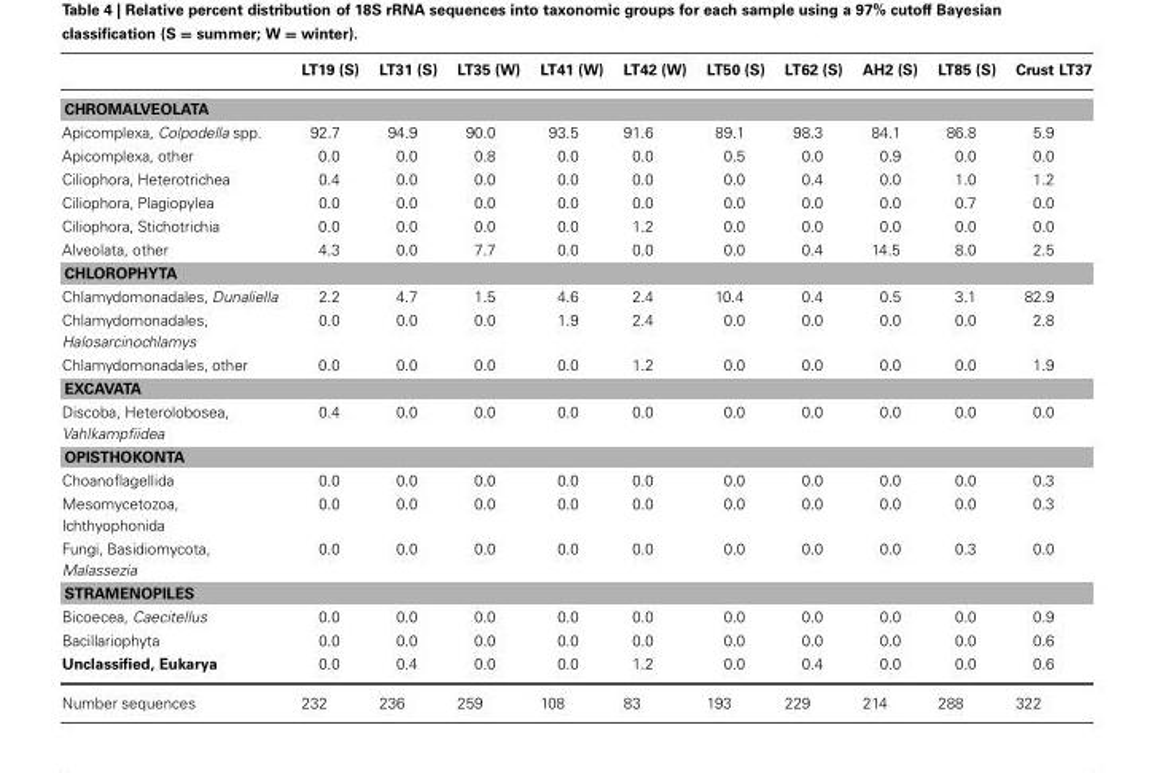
<table><thead><tr><td></td><td>LT19 (S)</td><td>LT31 (S)</td><td>LT35 (W)</td><td>LT41 (W)</td><td>LT42 (W)</td><td>LT50 (S)</td><td>LT62 (S)</td><td>AH2 (S)</td><td>LT85 (S)</td><td>Crust LT37</td></tr></thead><tbody><tr><td colspan="11">CHROMALVEOLATA</td></tr><tr><td>Apicomplexa, Colpodella spp.</td><td>92.7</td><td>94.9</td><td>90.0</td><td>93.5</td><td>91.6</td><td>89.1</td><td>98.3</td><td>84.1</td><td>86.8</td><td>5.9</td></tr><tr><td>Apicomplexa, other</td><td>0.0</td><td>0.0</td><td>0.8</td><td>0.0</td><td>0.0</td><td>0.5</td><td>0.0</td><td>0.9</td><td>0.0</td><td>0.0</td></tr><tr><td>Ciliophora, Heterotrichea</td><td>0.4</td><td>0.0</td><td>0.0</td><td>0.0</td><td>0.0</td><td>0.0</td><td>0.4</td><td>0.0</td><td>1.0</td><td>1.2</td></tr><tr><td>Ciliophora, Plagiopylea</td><td>0.0</td><td>0.0</td><td>0.0</td><td>0.0</td><td>0.0</td><td>0.0</td><td>0.0</td><td>0.0</td><td>0.7</td><td>0.0</td></tr><tr><td>Ciliophora, Stichotrichia</td><td>0.0</td><td>0.0</td><td>0.0</td><td>0.0</td><td>1.2</td><td>0.0</td><td>0.0</td><td>0.0</td><td>0.0</td><td>0.0</td></tr><tr><td>Alveolata, other</td><td>4.3</td><td>0.0</td><td>7.7</td><td>0.0</td><td>0.0</td><td>0.0</td><td>0.4</td><td>14.5</td><td>8.0</td><td>2.5</td></tr><tr><td colspan="11">CHLOROPHYTA</td></tr><tr><td>Chlamydomonadales, Dunaliella</td><td>2.2</td><td>4.7</td><td>1.5</td><td>4.6</td><td>2.4</td><td>10.4</td><td>0.4</td><td>0.5</td><td>3.1</td><td>82.9</td></tr><tr><td>Chlamydomonadales, Halosarcinochlamys</td><td>0.0</td><td>0.0</td><td>0.0</td><td>1.9</td><td>2.4</td><td>0.0</td><td>0.0</td><td>0.0</td><td>0.0</td><td>2.8</td></tr><tr><td>Chlamydomonadales, other</td><td>0.0</td><td>0.0</td><td>0.0</td><td>0.0</td><td>1.2</td><td>0.0</td><td>0.0</td><td>0.0</td><td>0.0</td><td>1.9</td></tr><tr><td colspan="11">EXCAVATA</td></tr><tr><td>Discoba, Heterolobosea, Vahlkampfiidea</td><td>0.4</td><td>0.0</td><td>0.0</td><td>0.0</td><td>0.0</td><td>0.0</td><td>0.0</td><td>0.0</td><td>0.0</td><td>0.0</td></tr><tr><td colspan="11">OPISTHOKONTA</td></tr><tr><td>Choanoflagellida</td><td>0.0</td><td>0.0</td><td>0.0</td><td>0.0</td><td>0.0</td><td>0.0</td><td>0.0</td><td>0.0</td><td>0.0</td><td>0.3</td></tr><tr><td>Mesomycetozoa, Ichthyophonida</td><td>0.0</td><td>0.0</td><td>0.0</td><td>0.0</td><td>0.0</td><td>0.0</td><td>0.0</td><td>0.0</td><td>0.0</td><td>0.3</td></tr><tr><td>Fungi, Basidiomycota, Malassezia</td><td>0.0</td><td>0.0</td><td>0.0</td><td>0.0</td><td>0.0</td><td>0.0</td><td>0.0</td><td>0.0</td><td>0.3</td><td>0.0</td></tr><tr><td colspan="11">STRAMENOPILES</td></tr><tr><td>Bicoecea, Caecitellus</td><td>0.0</td><td>0.0</td><td>0.0</td><td>0.0</td><td>0.0</td><td>0.0</td><td>0.0</td><td>0.0</td><td>0.0</td><td>0.9</td></tr><tr><td>Bacillariophyta</td><td>0.0</td><td>0.0</td><td>0.0</td><td>0.0</td><td>0.0</td><td>0.0</td><td>0.0</td><td>0.0</td><td>0.0</td><td>0.6</td></tr><tr><td>Unclassified, Eukarya</td><td>0.0</td><td>0.4</td><td>0.0</td><td>0.0</td><td>1.2</td><td>0.0</td><td>0.4</td><td>0.0</td><td>0.0</td><td>0.6</td></tr><tr><td>Number sequences</td><td>232</td><td>236</td><td>259</td><td>108</td><td>83</td><td>193</td><td>229</td><td>214</td><td>288</td><td>322</td></tr></tbody></table>